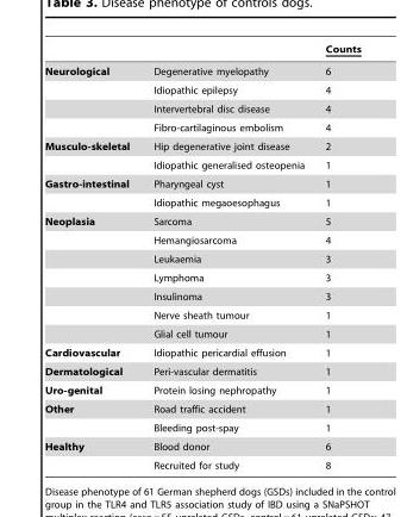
<table><thead><tr><td></td><td></td><td>Counts</td></tr></thead><tbody><tr><td rowspan="4">Neurological</td><td>Degenerative myelopathy</td><td>6</td></tr><tr><td>Idiopathic epilepsy</td><td>4</td></tr><tr><td>Intervertebral disc disease</td><td>4</td></tr><tr><td>Fibro-cartilaginous embolism</td><td>4</td></tr><tr><td rowspan="2">Musculo-skeletal</td><td>Hip degenerative joint disease</td><td>2</td></tr><tr><td>Idiopathic generalised osteopenia</td><td>1</td></tr><tr><td rowspan="2">Gastro-intestinal</td><td>Pharyngeal cyst</td><td>1</td></tr><tr><td>Idiopathic megaoesophagus</td><td>1</td></tr><tr><td rowspan="7">Neoplasia</td><td>Sarcoma</td><td>5</td></tr><tr><td>Hemangiosarcoma</td><td>4</td></tr><tr><td>Leukaemia</td><td>3</td></tr><tr><td>Lymphoma</td><td>3</td></tr><tr><td>Insulinoma</td><td>3</td></tr><tr><td>Nerve sheath tumour</td><td>1</td></tr><tr><td>Glial cell tumour</td><td>1</td></tr><tr><td>Cardiovascular</td><td>Idiopathic pericardial effusion</td><td>1</td></tr><tr><td>Dermatological</td><td>Peri-vascular dermatitis</td><td>1</td></tr><tr><td>Uro-genital</td><td>Protein losing nephropathy</td><td>1</td></tr><tr><td rowspan="2">Other</td><td>Road traffic accident</td><td>1</td></tr><tr><td>Bleeding post-spay</td><td>1</td></tr><tr><td rowspan="2">Healthy</td><td>Blood donor</td><td>6</td></tr><tr><td>Recruited for study</td><td>8</td></tr></tbody></table>